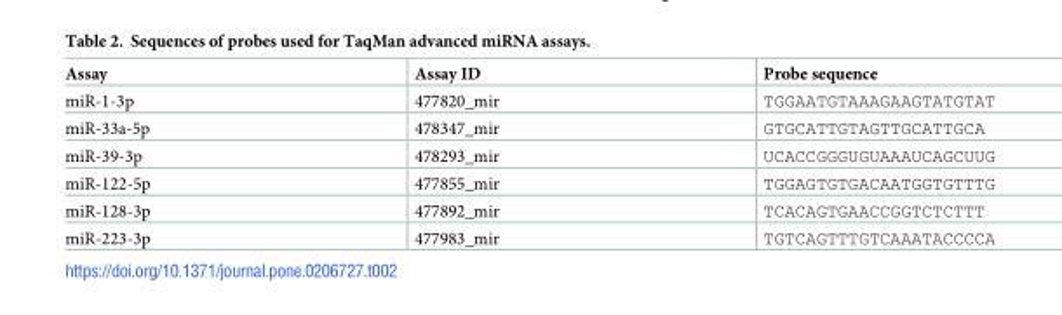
<table><thead><tr><td>Assay</td><td>Assay ID</td><td>Probe sequence</td></tr></thead><tbody><tr><td>miR-1-3p</td><td>477820_mir</td><td>TGGAATGTAAAGAAGTATGTAT</td></tr><tr><td>miR-33a-5p</td><td>478347_mir</td><td>GTGCATTGTAGTTGCATTGCA</td></tr><tr><td>miR-39-3p</td><td>478293_mir</td><td>UCACCGGGUGUAAAUCAGCUUG</td></tr><tr><td>miR-122-5p</td><td>477855_mir</td><td>TGGAGTGTGACAATGGTGTTTG</td></tr><tr><td>miR-128-3p</td><td>477892_mir</td><td>TCACAGTGAACCGGTCTCTTT</td></tr><tr><td>miR-223-3p</td><td>477983_mir</td><td>TGTCAGTTTGTCAAATACCCCA</td></tr></tbody></table>